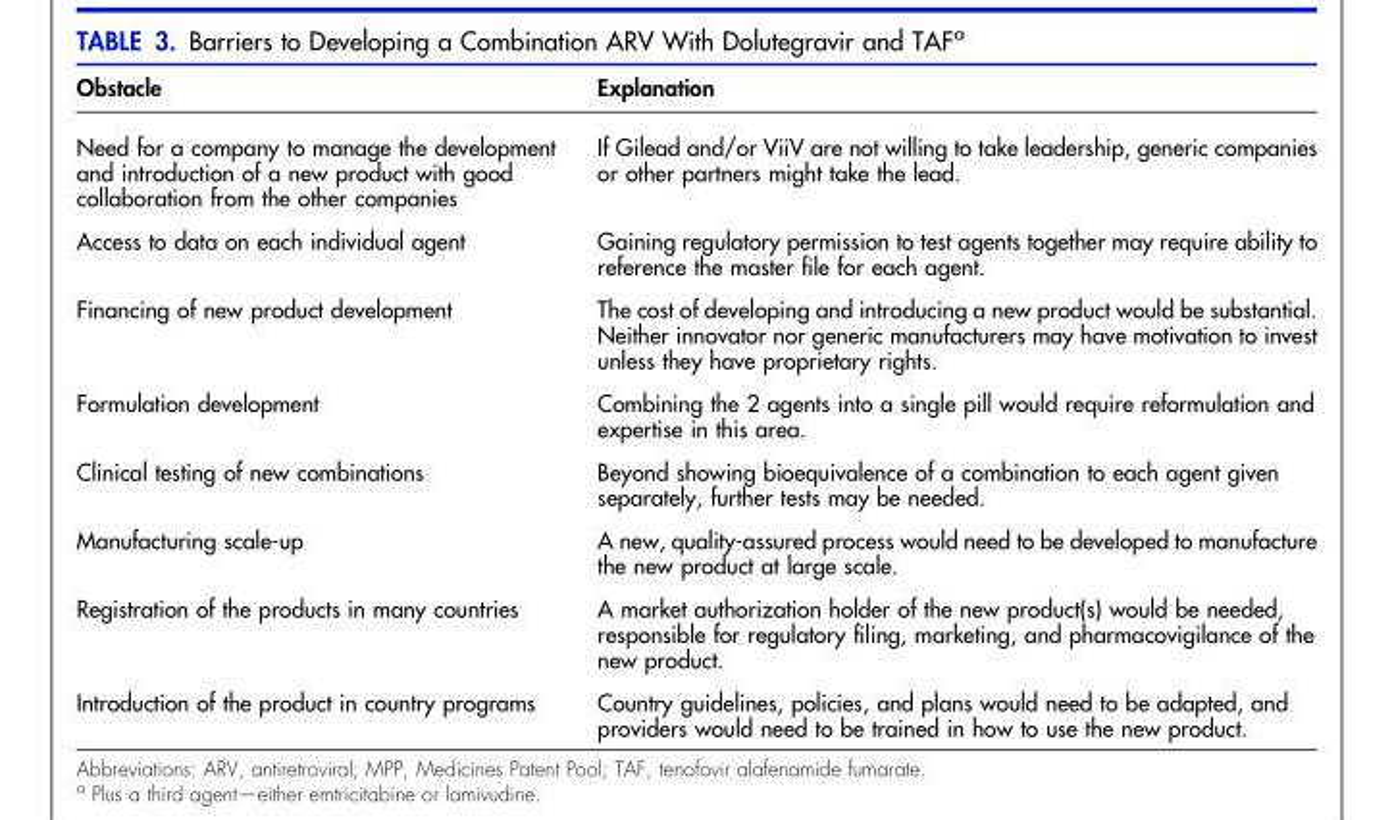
<table><thead><tr><td>Obstacle</td><td>Explanation</td></tr></thead><tbody><tr><td>Need for a company to manage the development and introduction of a new product with good collaboration from the other companies</td><td>If Gilead and/or ViiV are not willing to take leadership, generic companies or other partners might take the lead.</td></tr><tr><td>Access to data on each individual agent</td><td>Gaining regulatory permission to test agents together may require ability to reference the master file for each agent.</td></tr><tr><td>Financing of new product development</td><td>The cost of developing and introducing a new product would be substantial. Neither innovator nor generic manufacturers may have motivation to invest unless they have proprietary rights.</td></tr><tr><td>Formulation development</td><td>Combining the 2 agents into a single pill would require reformulation and expertise in this area.</td></tr><tr><td>Clinical testing of new combinations</td><td>Beyond showing bioequivalence of a combination to each agent given separately, further tests may be needed.</td></tr><tr><td>Manufacturing scale-up</td><td>A new, quality-assured process would need to be developed to manufacture the new product at large scale.</td></tr><tr><td>Registration of the products in many countries</td><td>A market authorization holder of the new product(s) would be needed, responsible for regulatory filing, marketing, and pharmacovigilance of the new product.</td></tr><tr><td>Introduction of the product in country programs</td><td>Country guidelines, policies, and plans would need to be adapted, and providers would need to be trained in how to use the new product.</td></tr></tbody></table>